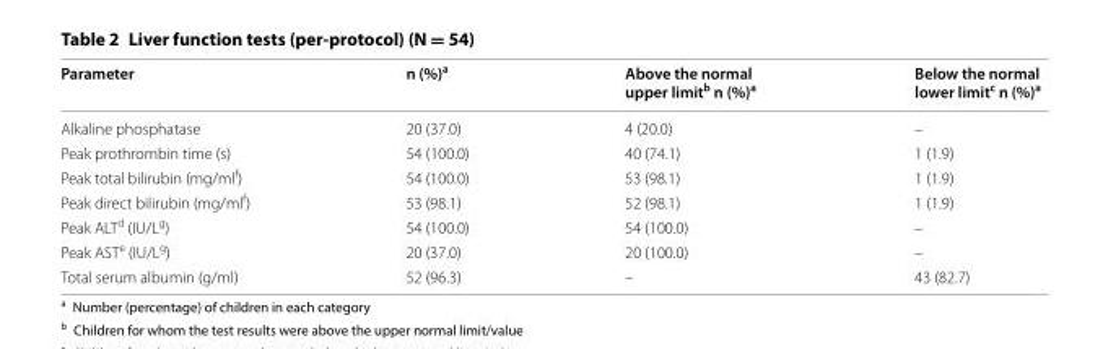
<table><thead><tr><td>Parameter</td><td>n (%)<sup>a</sup></td><td>Above the normal upper limit<sup>b</sup> n (%)<sup>a</sup></td><td>Below the normal lower limit<sup>c</sup> n (%)<sup>a</sup></td></tr></thead><tbody><tr><td>Alkaline phosphatase</td><td>20 (37.0)</td><td>4 (20.0)</td><td>–</td></tr><tr><td>Peak prothrombin time (s)</td><td>54 (100.0)</td><td>40 (74.1)</td><td>1 (1.9)</td></tr><tr><td>Peak total bilirubin (mg/ml<sup>f</sup>)</td><td>54 (100.0)</td><td>53 (98.1)</td><td>1 (1.9)</td></tr><tr><td>Peak direct bilirubin (mg/ml<sup>f</sup>)</td><td>53 (98.1)</td><td>52 (98.1)</td><td>1 (1.9)</td></tr><tr><td>Peak ALT<sup>d</sup> (IU/L<sup>g</sup>)</td><td>54 (100.0)</td><td>54 (100.0)</td><td>–</td></tr><tr><td>Peak AST<sup>e</sup> (IU/L<sup>g</sup>)</td><td>20 (37.0)</td><td>20 (100.0)</td><td>–</td></tr><tr><td>Total serum albumin (g/ml)</td><td>52 (96.3)</td><td>–</td><td>43 (82.7)</td></tr></tbody></table>